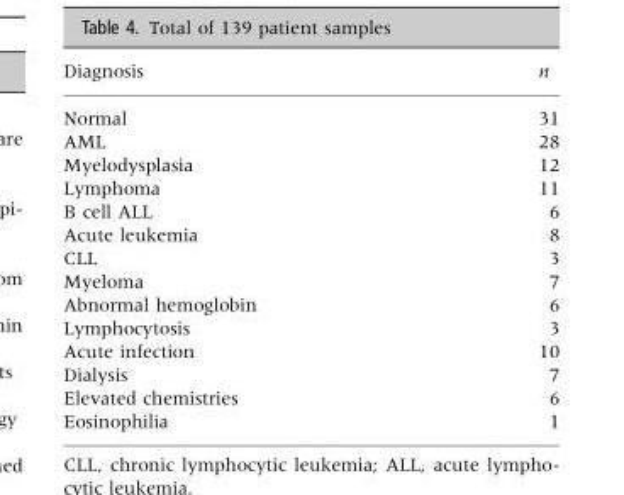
<table><thead><tr><td>Diagnosis</td><td>n</td></tr></thead><tbody><tr><td>Normal</td><td>31</td></tr><tr><td>AML</td><td>28</td></tr><tr><td>Myelodysplasia</td><td>12</td></tr><tr><td>Lymphoma</td><td>11</td></tr><tr><td>B cell ALL</td><td>6</td></tr><tr><td>Acute leukemia</td><td>8</td></tr><tr><td>CLL</td><td>3</td></tr><tr><td>Myeloma</td><td>7</td></tr><tr><td>Abnormal hemoglobin</td><td>6</td></tr><tr><td>Lymphocytosis</td><td>3</td></tr><tr><td>Acute infection</td><td>10</td></tr><tr><td>Dialysis</td><td>7</td></tr><tr><td>Elevated chemistries</td><td>6</td></tr><tr><td>Eosinophilia</td><td>1</td></tr></tbody></table>